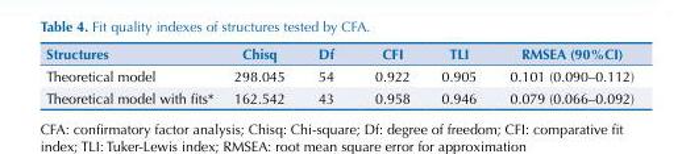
<table><thead><tr><td>Structures</td><td>Chisq</td><td>Df</td><td>CFI</td><td>TLI</td><td>RMSEA (90%CI)</td></tr></thead><tbody><tr><td>Theoretical model</td><td>298.045</td><td>54</td><td>0.922</td><td>0.905</td><td>0.101 (0.090–0.112)</td></tr><tr><td>Theoretical model with fits*</td><td>162.542</td><td>43</td><td>0.958</td><td>0.946</td><td>0.079 (0.066–0.092)</td></tr></tbody></table>